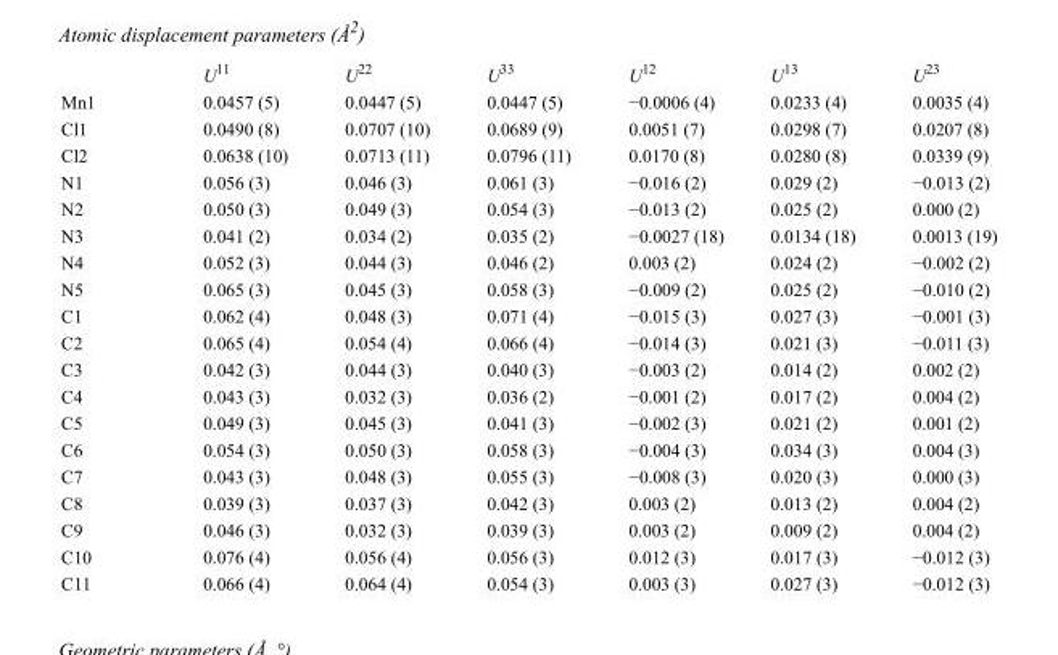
<table><thead><tr><td></td><td>U<sup>11</sup></td><td>U<sup>22</sup></td><td>U<sup>33</sup></td><td>U<sup>12</sup></td><td>U<sup>13</sup></td><td>U<sup>23</sup></td></tr></thead><tbody><tr><td>Mn1</td><td>0.0457 (5)</td><td>0.0447 (5)</td><td>0.0447 (5)</td><td>−0.0006 (4)</td><td>0.0233 (4)</td><td>0.0035 (4)</td></tr><tr><td>Cl1</td><td>0.0490 (8)</td><td>0.0707 (10)</td><td>0.0689 (9)</td><td>0.0051 (7)</td><td>0.0298 (7)</td><td>0.0207 (8)</td></tr><tr><td>Cl2</td><td>0.0638 (10)</td><td>0.0713 (11)</td><td>0.0796 (11)</td><td>0.0170 (8)</td><td>0.0280 (8)</td><td>0.0339 (9)</td></tr><tr><td>N1</td><td>0.056 (3)</td><td>0.046 (3)</td><td>0.061 (3)</td><td>−0.016 (2)</td><td>0.029 (2)</td><td>−0.013 (2)</td></tr><tr><td>N2</td><td>0.050 (3)</td><td>0.049 (3)</td><td>0.054 (3)</td><td>−0.013 (2)</td><td>0.025 (2)</td><td>0.000 (2)</td></tr><tr><td>N3</td><td>0.041 (2)</td><td>0.034 (2)</td><td>0.035 (2)</td><td>−0.0027 (18)</td><td>0.0134 (18)</td><td>0.0013 (19)</td></tr><tr><td>N4</td><td>0.052 (3)</td><td>0.044 (3)</td><td>0.046 (2)</td><td>0.003 (2)</td><td>0.024 (2)</td><td>−0.002 (2)</td></tr><tr><td>N5</td><td>0.065 (3)</td><td>0.045 (3)</td><td>0.058 (3)</td><td>−0.009 (2)</td><td>0.025 (2)</td><td>−0.010 (2)</td></tr><tr><td>C1</td><td>0.062 (4)</td><td>0.048 (3)</td><td>0.071 (4)</td><td>−0.015 (3)</td><td>0.027 (3)</td><td>−0.001 (3)</td></tr><tr><td>C2</td><td>0.065 (4)</td><td>0.054 (4)</td><td>0.066 (4)</td><td>−0.014 (3)</td><td>0.021 (3)</td><td>−0.011 (3)</td></tr><tr><td>C3</td><td>0.042 (3)</td><td>0.044 (3)</td><td>0.040 (3)</td><td>−0.003 (2)</td><td>0.014 (2)</td><td>0.002 (2)</td></tr><tr><td>C4</td><td>0.043 (3)</td><td>0.032 (3)</td><td>0.036 (2)</td><td>−0.001 (2)</td><td>0.017 (2)</td><td>0.004 (2)</td></tr><tr><td>C5</td><td>0.049 (3)</td><td>0.045 (3)</td><td>0.041 (3)</td><td>−0.002 (3)</td><td>0.021 (2)</td><td>0.001 (2)</td></tr><tr><td>C6</td><td>0.054 (3)</td><td>0.050 (3)</td><td>0.058 (3)</td><td>−0.004 (3)</td><td>0.034 (3)</td><td>0.004 (3)</td></tr><tr><td>C7</td><td>0.043 (3)</td><td>0.048 (3)</td><td>0.055 (3)</td><td>−0.008 (3)</td><td>0.020 (3)</td><td>0.000 (3)</td></tr><tr><td>C8</td><td>0.039 (3)</td><td>0.037 (3)</td><td>0.042 (3)</td><td>0.003 (2)</td><td>0.013 (2)</td><td>0.004 (2)</td></tr><tr><td>C9</td><td>0.046 (3)</td><td>0.032 (3)</td><td>0.039 (3)</td><td>0.003 (2)</td><td>0.009 (2)</td><td>0.004 (2)</td></tr><tr><td>C10</td><td>0.076 (4)</td><td>0.056 (4)</td><td>0.056 (3)</td><td>0.012 (3)</td><td>0.017 (3)</td><td>−0.012 (3)</td></tr><tr><td>C11</td><td>0.066 (4)</td><td>0.064 (4)</td><td>0.054 (3)</td><td>0.003 (3)</td><td>0.027 (3)</td><td>−0.012 (3)</td></tr></tbody></table>